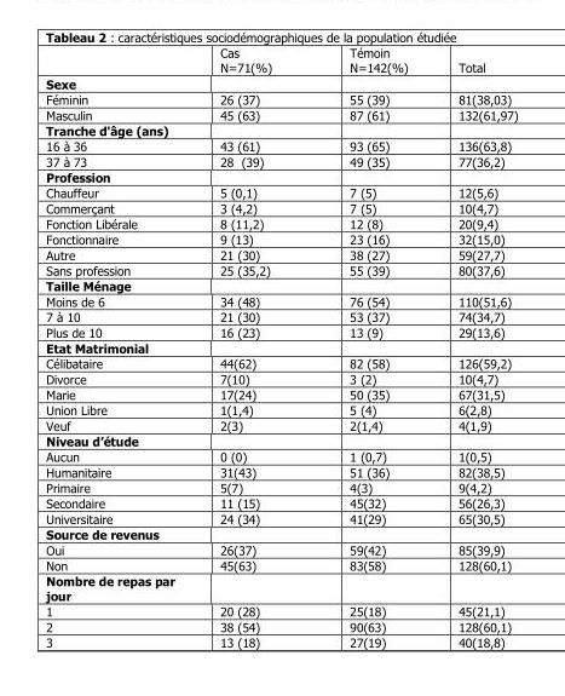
<table><thead><tr><td></td><td>Cas N=71(%)</td><td>Témoin N=142(%)</td><td>Total</td></tr></thead><tbody><tr><td colspan="4">Sexe</td></tr><tr><td>Féminin</td><td>26 (37)</td><td>55 (39)</td><td>81(38,03)</td></tr><tr><td>Masculin</td><td>45 (63)</td><td>87 (61)</td><td>132(61,97)</td></tr><tr><td colspan="4">Tranche d&#x27;âge (ans)</td></tr><tr><td>16 à 36</td><td>43 (61)</td><td>93 (65)</td><td>136(63,8)</td></tr><tr><td>37 à 73</td><td>28 (39)</td><td>49 (35)</td><td>77(36,2)</td></tr><tr><td colspan="4">Profession</td></tr><tr><td>Chauffeur</td><td>5 (0,1)</td><td>7 (5)</td><td>12(5,6)</td></tr><tr><td>Commerçant</td><td>3 (4,2)</td><td>7 (5)</td><td>10(4,7)</td></tr><tr><td>Fonction Libérale</td><td>8 (11,2)</td><td>12 (8)</td><td>20(9,4)</td></tr><tr><td>Fonctionnaire</td><td>9 (13)</td><td>23 (16)</td><td>32(15,0)</td></tr><tr><td>Autre</td><td>21 (30)</td><td>38 (27)</td><td>59(27,7)</td></tr><tr><td>Sans profession</td><td>25 (35,2)</td><td>55 (39)</td><td>80(37,6)</td></tr><tr><td colspan="4">Taille Ménage</td></tr><tr><td>Moins de 6</td><td>34 (48)</td><td>76 (54)</td><td>110(51,6)</td></tr><tr><td>7 à 10</td><td>21 (30)</td><td>53 (37)</td><td>74(34,7)</td></tr><tr><td>Plus de 10</td><td>16 (23)</td><td>13 (9)</td><td>29(13,6)</td></tr><tr><td colspan="4">Etat Matrimonial</td></tr><tr><td>Célibataire</td><td>44(62)</td><td>82 (58)</td><td>126(59,2)</td></tr><tr><td>Divorce</td><td>7(10)</td><td>3 (2)</td><td>10(4,7)</td></tr><tr><td>Marie</td><td>17(24)</td><td>50 (35)</td><td>67(31,5)</td></tr><tr><td>Union Libre</td><td>1(1,4)</td><td>5 (4)</td><td>6(2,8)</td></tr><tr><td>Veuf</td><td>2(3)</td><td>2(1,4)</td><td>4(1,9)</td></tr><tr><td colspan="4">Niveau d’étude</td></tr><tr><td>Aucun</td><td>0 (0)</td><td>1 (0,7)</td><td>1(0,5)</td></tr><tr><td>Humanitaire</td><td>31(43)</td><td>51 (36)</td><td>82(38,5)</td></tr><tr><td>Primaire</td><td>5(7)</td><td>4(3)</td><td>9(4,2)</td></tr><tr><td>Secondaire</td><td>11 (15)</td><td>45(32)</td><td>56(26,3)</td></tr><tr><td>Universitaire</td><td>24 (34)</td><td>41(29)</td><td>65(30,5)</td></tr><tr><td colspan="4">Source de revenus</td></tr><tr><td>Oui</td><td>26(37)</td><td>59(42)</td><td>85(39,9)</td></tr><tr><td>Non</td><td>45(63)</td><td>83(58)</td><td>128(60,1)</td></tr><tr><td colspan="4">Nombre de repas par jour</td></tr><tr><td>1</td><td>20 (28)</td><td>25(18)</td><td>45(21,1)</td></tr><tr><td>2</td><td>38 (54)</td><td>90(63)</td><td>128(60,1)</td></tr><tr><td>3</td><td>13 (18)</td><td>27(19)</td><td>40(18,8)</td></tr></tbody></table>